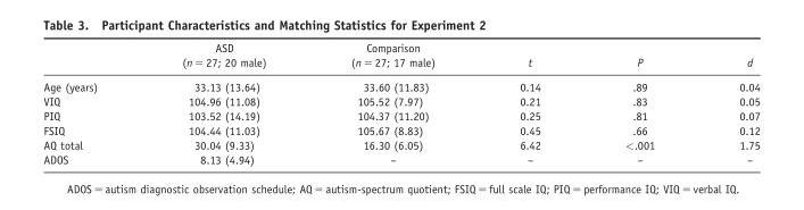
<table><thead><tr><td></td><td>ASD (n = 27; 20 male)</td><td>Comparison (n = 27; 17 male)</td><td>t</td><td>P</td><td>d</td></tr></thead><tbody><tr><td>Age (years)</td><td>33.13 (13.64)</td><td>33.60 (11.83)</td><td>0.14</td><td>.89</td><td>0.04</td></tr><tr><td>VIQ</td><td>104.96 (11.08)</td><td>105.52 (7.97)</td><td>0.21</td><td>.83</td><td>0.05</td></tr><tr><td>PIQ</td><td>103.52 (14.19)</td><td>104.37 (11.20)</td><td>0.25</td><td>.81</td><td>0.07</td></tr><tr><td>FSIQ</td><td>104.44 (11.03)</td><td>105.67 (8.83)</td><td>0.45</td><td>.66</td><td>0.12</td></tr><tr><td>AQ total</td><td>30.04 (9.33)</td><td>16.30 (6.05)</td><td>6.42</td><td>&lt;.001</td><td>1.75</td></tr><tr><td>ADOS</td><td>8.13 (4.94)</td><td>–</td><td>–</td><td>–</td><td>–</td></tr></tbody></table>